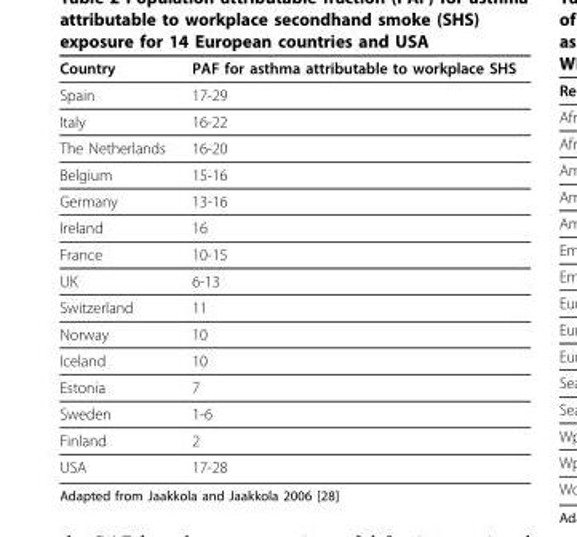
<table><thead><tr><td>Country</td><td>PAF for asthma attributable to workplace SHS</td></tr></thead><tbody><tr><td>Spain</td><td>17-29</td></tr><tr><td>Italy</td><td>16-22</td></tr><tr><td>The Netherlands</td><td>16-20</td></tr><tr><td>Belgium</td><td>15-16</td></tr><tr><td>Germany</td><td>13-16</td></tr><tr><td>Ireland</td><td>16</td></tr><tr><td>France</td><td>10-15</td></tr><tr><td>UK</td><td>6-13</td></tr><tr><td>Switzerland</td><td>11</td></tr><tr><td>Norway</td><td>10</td></tr><tr><td>Iceland</td><td>10</td></tr><tr><td>Estonia</td><td>7</td></tr><tr><td>Sweden</td><td>1-6</td></tr><tr><td>Finland</td><td>2</td></tr><tr><td>USA</td><td>17-28</td></tr></tbody></table>